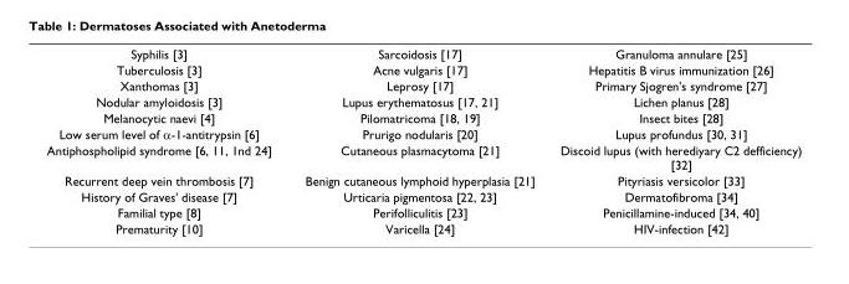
<table><tbody><tr><td>Syphilis [3]</td><td>Sarcoidosis [17]</td><td>Granuloma annulare [25]</td></tr><tr><td>Tuberculosis [3]</td><td>Acne vulgaris [17]</td><td>Hepatitis B virus immunization [26]</td></tr><tr><td>Xanthomas [3]</td><td>Leprosy [17]</td><td>Primary Sjogren&#x27;s syndrome [27]</td></tr><tr><td>Nodular amyloidosis [3]</td><td>Lupus erythematosus [17, 21]</td><td>Lichen planus [28]</td></tr><tr><td>Melanocytic naevi [4]</td><td>Pilomatricoma [18, 19]</td><td>Insect bites [28]</td></tr><tr><td>Low serum level of α-1-antitrypsin [6]</td><td>Prurigo nodularis [20]</td><td>Lupus profundus [30, 31]</td></tr><tr><td>Antiphospholipid syndrome [6, 11, 1nd 24]</td><td>Cutaneous plasmacytoma [21]</td><td>Discoid lupus (with herediyary C2 defficiency) [32]</td></tr><tr><td>Recurrent deep vein thrombosis [7]</td><td>Benign cutaneous lymphoid hyperplasia [21]</td><td>Pityriasis versicolor [33]</td></tr><tr><td>History of Graves&#x27; disease [7]</td><td>Urticaria pigmentosa [22, 23]</td><td>Dermatofibroma [34]</td></tr><tr><td>Familial type [8]</td><td>Perifolliculitis [23]</td><td>Penicillamine-induced [34, 40]</td></tr><tr><td>Prematurity [10]</td><td>Varicella [24]</td><td>HIV-infection [42]</td></tr></tbody></table>